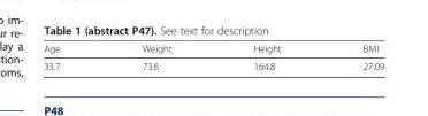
<table><thead><tr><td>Age</td><td>Weight</td><td>Height</td><td>BMI</td></tr></thead><tbody><tr><td>33.7</td><td>73.6</td><td>164.8</td><td>27.09</td></tr></tbody></table>